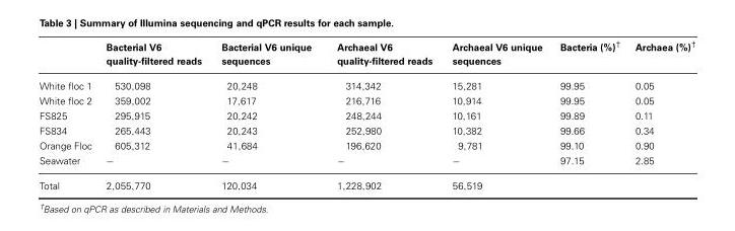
<table><thead><tr><td></td><td>Bacterial V6 quality-filtered reads</td><td>Bacterial V6 unique sequences</td><td>Archaeal V6 quality-filtered reads</td><td>Archaeal V6 unique sequences</td><td>Bacteria (%)<sup>†</sup></td><td>Archaea (%)<sup>†</sup></td></tr></thead><tbody><tr><td>White floc 1</td><td>530,098</td><td>20,248</td><td>314,342</td><td>15,281</td><td>99.95</td><td>0.05</td></tr><tr><td>White floc 2</td><td>359,002</td><td>17,617</td><td>216,716</td><td>10,914</td><td>99.95</td><td>0.05</td></tr><tr><td>FS825</td><td>295,915</td><td>20,242</td><td>248,244</td><td>10,161</td><td>99.89</td><td>0.11</td></tr><tr><td>FS834</td><td>265,443</td><td>20,243</td><td>252,980</td><td>10,382</td><td>99.66</td><td>0.34</td></tr><tr><td>Orange Floc</td><td>605,312</td><td>41,684</td><td>196,620</td><td>9,781</td><td>99.10</td><td>0.90</td></tr><tr><td>Seawater</td><td>−</td><td>−</td><td>−</td><td>−</td><td>97.15</td><td>2.85</td></tr><tr><td>Total</td><td>2,055,770</td><td>120,034</td><td>1,228,902</td><td>56,519</td><td></td><td></td></tr></tbody></table>